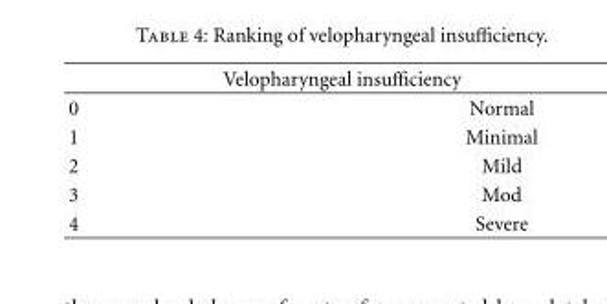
<table><thead><tr><td colspan="2">Velopharyngeal insufficiency</td></tr><tr><td>0</td><td>Normal</td></tr></thead><tbody><tr><td>1</td><td>Minimal</td></tr><tr><td>2</td><td>Mild</td></tr><tr><td>3</td><td>Mod</td></tr><tr><td>4</td><td>Severe</td></tr></tbody></table>